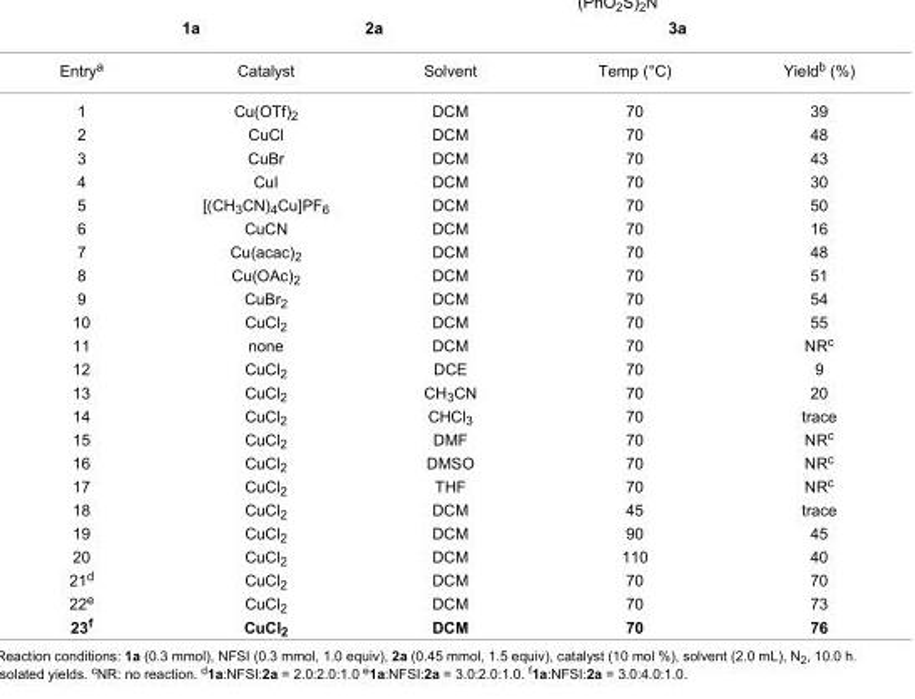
<table><tbody><tr><td>Entry<sup>a</sup></td><td>Catalyst</td><td>Solvent</td><td>Temp (°C)</td><td>Yield<sup>b</sup> (%)</td></tr><tr><td>1</td><td>Cu(OTf)<sub>2</sub></td><td>DCM</td><td>70</td><td>39</td></tr><tr><td>2</td><td>CuCl</td><td>DCM</td><td>70</td><td>48</td></tr><tr><td>3</td><td>CuBr</td><td>DCM</td><td>70</td><td>43</td></tr><tr><td>4</td><td>CuI</td><td>DCM</td><td>70</td><td>30</td></tr><tr><td>5</td><td>[(CH<sub>3</sub>CN)<sub>4</sub>Cu]PF<sub>6</sub></td><td>DCM</td><td>70</td><td>50</td></tr><tr><td>6</td><td>CuCN</td><td>DCM</td><td>70</td><td>16</td></tr><tr><td>7</td><td>Cu(acac)<sub>2</sub></td><td>DCM</td><td>70</td><td>48</td></tr><tr><td>8</td><td>Cu(OAc)<sub>2</sub></td><td>DCM</td><td>70</td><td>51</td></tr><tr><td>9</td><td>CuBr<sub>2</sub></td><td>DCM</td><td>70</td><td>54</td></tr><tr><td>10</td><td>CuCl<sub>2</sub></td><td>DCM</td><td>70</td><td>55</td></tr><tr><td>11</td><td>none</td><td>DCM</td><td>70</td><td>NR<sup>c</sup></td></tr><tr><td>12</td><td>CuCl<sub>2</sub></td><td>DCE</td><td>70</td><td>9</td></tr><tr><td>13</td><td>CuCl<sub>2</sub></td><td>CH<sub>3</sub>CN</td><td>70</td><td>20</td></tr><tr><td>14</td><td>CuCl<sub>2</sub></td><td>CHCl<sub>3</sub></td><td>70</td><td>trace</td></tr><tr><td>15</td><td>CuCl<sub>2</sub></td><td>DMF</td><td>70</td><td>NR<sup>c</sup></td></tr><tr><td>16</td><td>CuCl<sub>2</sub></td><td>DMSO</td><td>70</td><td>NR<sup>c</sup></td></tr><tr><td>17</td><td>CuCl<sub>2</sub></td><td>THF</td><td>70</td><td>NR<sup>c</sup></td></tr><tr><td>18</td><td>CuCl<sub>2</sub></td><td>DCM</td><td>45</td><td>trace</td></tr><tr><td>19</td><td>CuCl<sub>2</sub></td><td>DCM</td><td>90</td><td>45</td></tr><tr><td>20</td><td>CuCl<sub>2</sub></td><td>DCM</td><td>110</td><td>40</td></tr><tr><td>21<sup>d</sup></td><td>CuCl<sub>2</sub></td><td>DCM</td><td>70</td><td>70</td></tr><tr><td>22<sup>e</sup></td><td>CuCl<sub>2</sub></td><td>DCM</td><td>70</td><td>73</td></tr><tr><td>23<sup>f</sup></td><td>CuCl<sub>2</sub></td><td>DCM</td><td>70</td><td>76</td></tr></tbody></table>